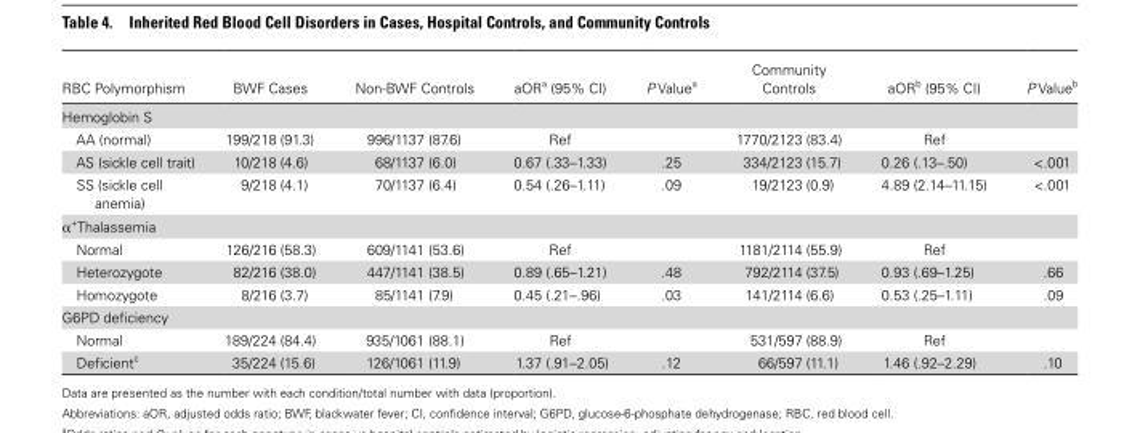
<table><thead><tr><td>RBC Polymorphism</td><td>BWF Cases</td><td>Non-BWF Controls</td><td>aOR<sup>a</sup> (95% CI)</td><td>P Value<sup>a</sup></td><td>Community Controls</td><td>aOR<sup>b</sup> (95% CI)</td><td>P Value<sup>b</sup></td></tr></thead><tbody><tr><td colspan="8">Hemoglobin S</td></tr><tr><td>AA (normal)</td><td>199/218 (91.3)</td><td>996/1137 (87.6)</td><td>Ref</td><td></td><td>1770/2123 (83.4)</td><td>Ref</td><td></td></tr><tr><td>AS (sickle cell trait)</td><td>10/218 (4.6)</td><td>68/1137 (6.0)</td><td>0.67 (.33–1.33)</td><td>.25</td><td>334/2123 (15.7)</td><td>0.26 (.13–.50)</td><td>&lt;.001</td></tr><tr><td>SS (sickle cell anemia)</td><td>9/218 (4.1)</td><td>70/1137 (6.4)</td><td>0.54 (.26–1.11)</td><td>.09</td><td>19/2123 (0.9)</td><td>4.89 (2.14–11.15)</td><td>&lt;.001</td></tr><tr><td colspan="8">α<sup>+</sup>Thalassemia</td></tr><tr><td>Normal</td><td>126/216 (58.3)</td><td>609/1141 (53.6)</td><td>Ref</td><td></td><td>1181/2114 (55.9)</td><td>Ref</td><td></td></tr><tr><td>Heterozygote</td><td>82/216 (38.0)</td><td>447/1141 (38.5)</td><td>0.89 (.65–1.21)</td><td>.48</td><td>792/2114 (37.5)</td><td>0.93 (.69–1.25)</td><td>.66</td></tr><tr><td>Homozygote</td><td>8/216 (3.7)</td><td>85/1141 (7.9)</td><td>0.45 (.21–.96)</td><td>.03</td><td>141/2114 (6.6)</td><td>0.53 (.25–1.11)</td><td>.09</td></tr><tr><td colspan="8">G6PD deficiency</td></tr><tr><td>Normal</td><td>189/224 (84.4)</td><td>935/1061 (88.1)</td><td>Ref</td><td></td><td>531/597 (88.9)</td><td>Ref</td><td></td></tr><tr><td>Deficient<sup>c</sup></td><td>35/224 (15.6)</td><td>126/1061 (11.9)</td><td>1.37 (.91–2.05)</td><td>.12</td><td>66/597 (11.1)</td><td>1.46 (.92–2.29)</td><td>.10</td></tr></tbody></table>